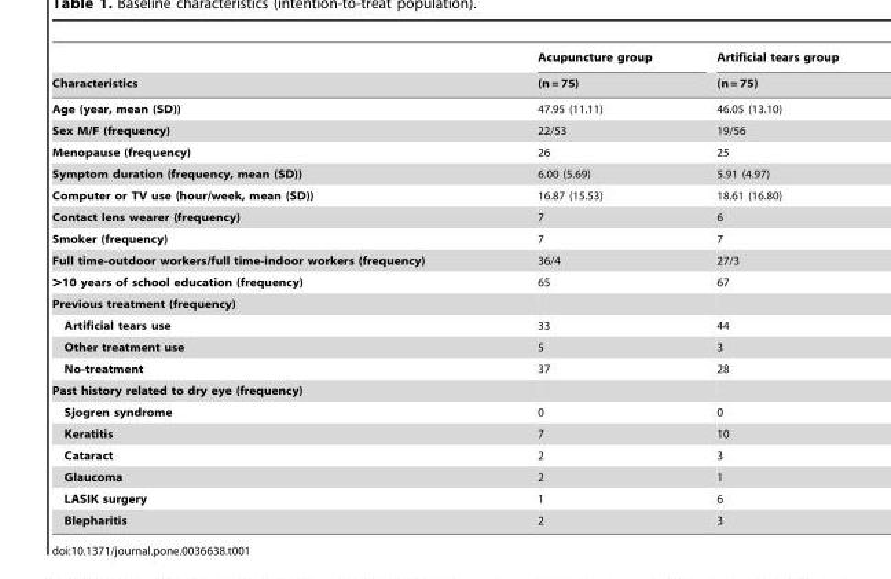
<table><thead><tr><td rowspan="2">Characteristics</td><td rowspan="2">Acupuncture group (n = 75)</td><td rowspan="2">Artificial tears group (n = 75)</td></tr><tr></tr></thead><tbody><tr><td>Age (year, mean (SD))</td><td>47.95 (11.11)</td><td>46.05 (13.10)</td></tr><tr><td>Sex M/F (frequency)</td><td>22/53</td><td>19/56</td></tr><tr><td>Menopause (frequency)</td><td>26</td><td>25</td></tr><tr><td>Symptom duration (frequency, mean (SD))</td><td>6.00 (5.69)</td><td>5.91 (4.97)</td></tr><tr><td>Computer or TV use (hour/week, mean (SD))</td><td>16.87 (15.53)</td><td>18.61 (16.80)</td></tr><tr><td>Contact lens wearer (frequency)</td><td>7</td><td>6</td></tr><tr><td>Smoker (frequency)</td><td>7</td><td>7</td></tr><tr><td>Full time-outdoor workers/full time-indoor workers (frequency)</td><td>36/4</td><td>27/3</td></tr><tr><td>&gt;10 years of school education (frequency)</td><td>65</td><td>67</td></tr><tr><td colspan="3">Previous treatment (frequency)</td></tr><tr><td>Artificial tears use</td><td>33</td><td>44</td></tr><tr><td>Other treatment use</td><td>5</td><td>3</td></tr><tr><td>No-treatment</td><td>37</td><td>28</td></tr><tr><td colspan="3">Past history related to dry eye (frequency)</td></tr><tr><td>Sjogren syndrome</td><td>0</td><td>0</td></tr><tr><td>Keratitis</td><td>7</td><td>10</td></tr><tr><td>Cataract</td><td>2</td><td>3</td></tr><tr><td>Glaucoma</td><td>2</td><td>1</td></tr><tr><td>LASIK surgery</td><td>1</td><td>6</td></tr><tr><td>Blepharitis</td><td>2</td><td>3</td></tr></tbody></table>